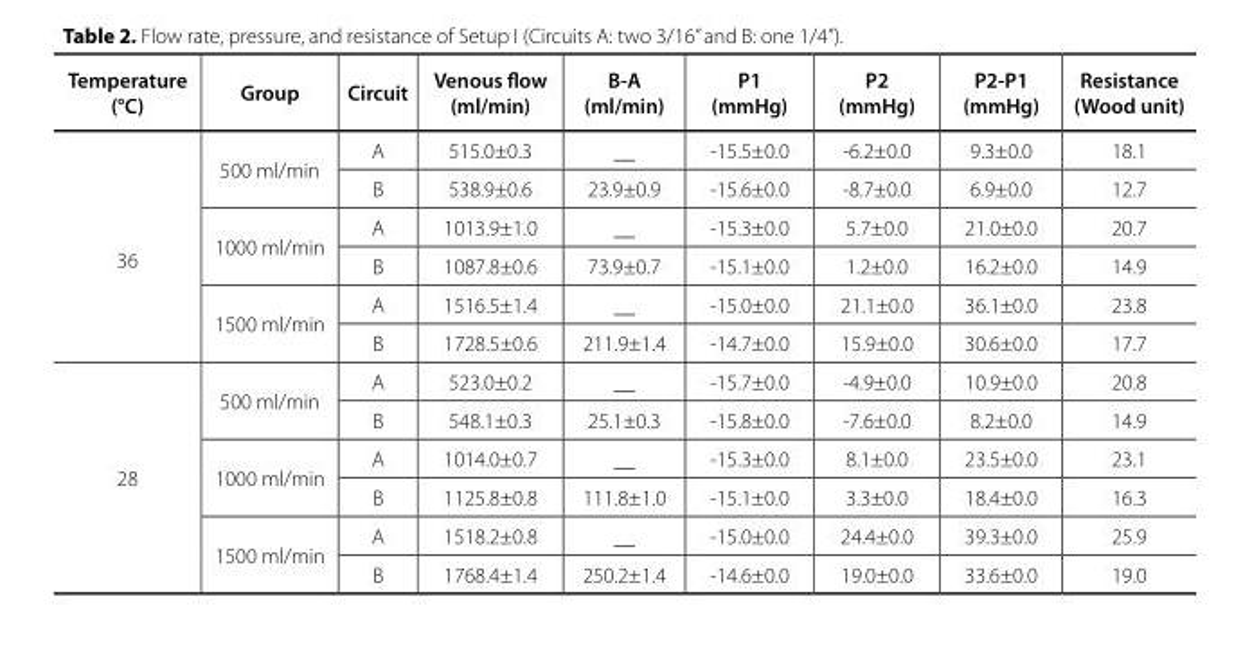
<table><thead><tr><td>Temperature (°C)</td><td>Group</td><td>Circuit</td><td>Venous flow (ml/min)</td><td>B-A (ml/min)</td><td>P1 (mmHg)</td><td>P2 (mmHg)</td><td>P2-P1 (mmHg)</td><td>Resistance (Wood unit)</td></tr></thead><tbody><tr><td rowspan="6">36</td><td rowspan="2">500 ml/min</td><td>A</td><td>515.0±0.3</td><td>__</td><td>-15.5±0.0</td><td>-6.2±0.0</td><td>9.3±0.0</td><td>18.1</td></tr><tr><td>B</td><td>538.9±0.6</td><td>23.9±0.9</td><td>-15.6±0.0</td><td>-8.7±0.0</td><td>6.9±0.0</td><td>12.7</td></tr><tr><td rowspan="2">1000 ml/min</td><td>A</td><td>1013.9±1.0</td><td>__</td><td>-15.3±0.0</td><td>5.7±0.0</td><td>21.0±0.0</td><td>20.7</td></tr><tr><td>B</td><td>1087.8±0.6</td><td>73.9±0.7</td><td>-15.1±0.0</td><td>1.2±0.0</td><td>16.2±0.0</td><td>14.9</td></tr><tr><td rowspan="2">1500 ml/min</td><td>A</td><td>1516.5±1.4</td><td>__</td><td>-15.0±0.0</td><td>21.1±0.0</td><td>36.1±0.0</td><td>23.8</td></tr><tr><td>B</td><td>1728.5±0.6</td><td>211.9±1.4</td><td>-14.7±0.0</td><td>15.9±0.0</td><td>30.6±0.0</td><td>17.7</td></tr><tr><td rowspan="6">28</td><td rowspan="2">500 ml/min</td><td>A</td><td>523.0±0.2</td><td>__</td><td>-15.7±0.0</td><td>-4.9±0.0</td><td>10.9±0.0</td><td>20.8</td></tr><tr><td>B</td><td>548.1±0.3</td><td>25.1±0.3</td><td>-15.8±0.0</td><td>-7.6±0.0</td><td>8.2±0.0</td><td>14.9</td></tr><tr><td rowspan="2">1000 ml/min</td><td>A</td><td>1014.0±0.7</td><td>__</td><td>-15.3±0.0</td><td>8.1±0.0</td><td>23.5±0.0</td><td>23.1</td></tr><tr><td>B</td><td>1125.8±0.8</td><td>111.8±1.0</td><td>-15.1±0.0</td><td>3.3±0.0</td><td>18.4±0.0</td><td>16.3</td></tr><tr><td rowspan="2">1500 ml/min</td><td>A</td><td>1518.2±0.8</td><td>__</td><td>-15.0±0.0</td><td>24.4±0.0</td><td>39.3±0.0</td><td>25.9</td></tr><tr><td>B</td><td>1768.4±1.4</td><td>250.2±1.4</td><td>-14.6±0.0</td><td>19.0±0.0</td><td>33.6±0.0</td><td>19.0</td></tr></tbody></table>